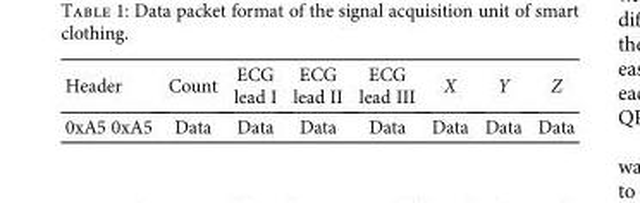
<table><thead><tr><td>Header</td><td>Count</td><td>ECG lead I</td><td>ECG lead II</td><td>ECG lead III</td><td>X</td><td>Y</td><td>Z</td></tr></thead><tbody><tr><td>0xA5 0xA5</td><td>Data</td><td>Data</td><td>Data</td><td>Data</td><td>Data</td><td>Data</td><td>Data</td></tr></tbody></table>